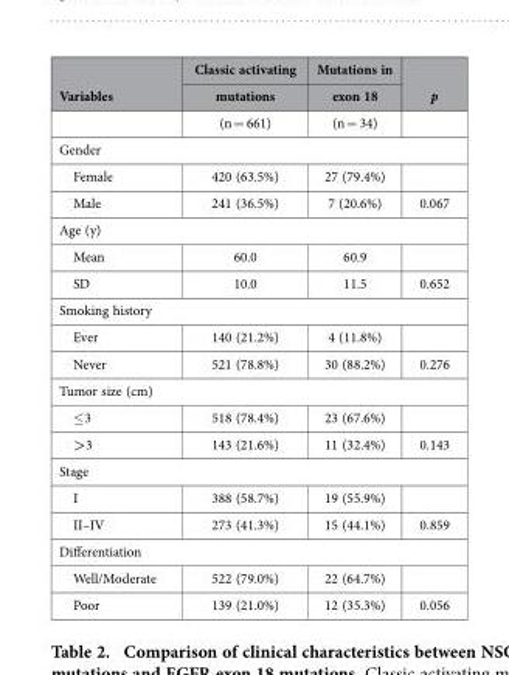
<table><thead><tr><td rowspan="2">Variables</td><td rowspan="2">Classic activating mutations</td><td rowspan="2">Mutations in exon 18</td><td rowspan="2">p</td></tr><tr></tr></thead><tbody><tr><td></td><td>(n = 661)</td><td>(n = 34)</td><td></td></tr><tr><td colspan="4">Gender</td></tr><tr><td>Female</td><td>420 (63.5%)</td><td>27 (79.4%)</td><td></td></tr><tr><td>Male</td><td>241 (36.5%)</td><td>7 (20.6%)</td><td>0.067</td></tr><tr><td colspan="4">Age (y)</td></tr><tr><td>Mean</td><td>60.0</td><td>60.9</td><td></td></tr><tr><td>SD</td><td>10.0</td><td>11.5</td><td>0.652</td></tr><tr><td colspan="4">Smoking history</td></tr><tr><td>Ever</td><td>140 (21.2%)</td><td>4 (11.8%)</td><td></td></tr><tr><td>Never</td><td>521 (78.8%)</td><td>30 (88.2%)</td><td>0.276</td></tr><tr><td colspan="4">Tumor size (cm)</td></tr><tr><td>≤ 3</td><td>518 (78.4%)</td><td>23 (67.6%)</td><td></td></tr><tr><td>&gt;3</td><td>143 (21.6%)</td><td>11 (32.4%)</td><td>0.143</td></tr><tr><td colspan="4">Stage</td></tr><tr><td>I</td><td>388 (58.7%)</td><td>19 (55.9%)</td><td></td></tr><tr><td>II–IV</td><td>273 (41.3%)</td><td>15 (44.1%)</td><td>0.859</td></tr><tr><td colspan="4">Differentiation</td></tr><tr><td>Well/Moderate</td><td>522 (79.0%)</td><td>22 (64.7%)</td><td></td></tr><tr><td>Poor</td><td>139 (21.0%)</td><td>12 (35.3%)</td><td>0.056</td></tr></tbody></table>